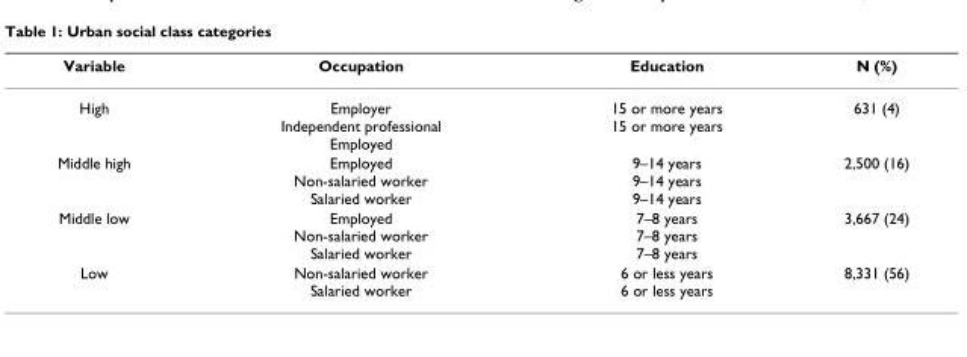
<table><thead><tr><td>Variable</td><td>Occupation</td><td>Education</td><td>N (%)</td></tr></thead><tbody><tr><td>High</td><td>Employer Independent professional Employed</td><td>15 or more years 15 or more years</td><td>631 (4)</td></tr><tr><td>Middle high</td><td>Employed Non-salaried worker Salaried worker</td><td>9–14 years 9–14 years 9–14 years</td><td>2,500 (16)</td></tr><tr><td>Middle low</td><td>Employed Non-salaried worker Salaried worker</td><td>7–8 years 7–8 years 7–8 years</td><td>3,667 (24)</td></tr><tr><td>Low</td><td>Non-salaried worker Salaried worker</td><td>6 or less years 6 or less years</td><td>8,331 (56)</td></tr></tbody></table>